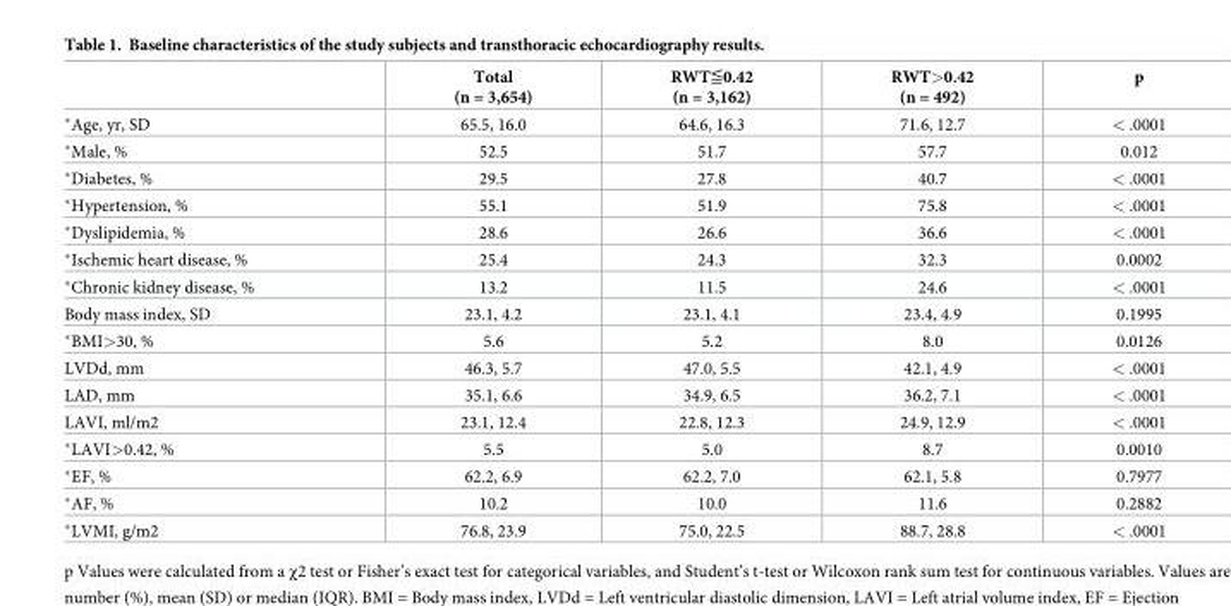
<table><thead><tr><td></td><td>Total (n = 3,654)</td><td>RWT≦0.42 (n = 3,162)</td><td>RWT&gt;0.42 (n = 492)</td><td>p</td></tr></thead><tbody><tr><td>*Age, yr, SD</td><td>65.5, 16.0</td><td>64.6, 16.3</td><td>71.6, 12.7</td><td>&lt; .0001</td></tr><tr><td>*Male, %</td><td>52.5</td><td>51.7</td><td>57.7</td><td>0.012</td></tr><tr><td>*Diabetes, %</td><td>29.5</td><td>27.8</td><td>40.7</td><td>&lt; .0001</td></tr><tr><td>*Hypertension, %</td><td>55.1</td><td>51.9</td><td>75.8</td><td>&lt; .0001</td></tr><tr><td>*Dyslipidemia, %</td><td>28.6</td><td>26.6</td><td>36.6</td><td>&lt; .0001</td></tr><tr><td>*Ischemic heart disease, %</td><td>25.4</td><td>24.3</td><td>32.3</td><td>0.0002</td></tr><tr><td>*Chronic kidney disease, %</td><td>13.2</td><td>11.5</td><td>24.6</td><td>&lt; .0001</td></tr><tr><td>Body mass index, SD</td><td>23.1, 4.2</td><td>23.1, 4.1</td><td>23.4, 4.9</td><td>0.1995</td></tr><tr><td>*BMI&gt;30, %</td><td>5.6</td><td>5.2</td><td>8.0</td><td>0.0126</td></tr><tr><td>LVDd, mm</td><td>46.3, 5.7</td><td>47.0, 5.5</td><td>42.1, 4.9</td><td>&lt; .0001</td></tr><tr><td>LAD, mm</td><td>35.1, 6.6</td><td>34.9, 6.5</td><td>36.2, 7.1</td><td>&lt; .0001</td></tr><tr><td>LAVI, ml/m2</td><td>23.1, 12.4</td><td>22.8, 12.3</td><td>24.9, 12.9</td><td>&lt; .0001</td></tr><tr><td>*LAVI&gt;0.42, %</td><td>5.5</td><td>5.0</td><td>8.7</td><td>0.0010</td></tr><tr><td>*EF, %</td><td>62.2, 6.9</td><td>62.2, 7.0</td><td>62.1, 5.8</td><td>0.7977</td></tr><tr><td>*AF, %</td><td>10.2</td><td>10.0</td><td>11.6</td><td>0.2882</td></tr><tr><td>*LVMI, g/m2</td><td>76.8, 23.9</td><td>75.0, 22.5</td><td>88.7, 28.8</td><td>&lt; .0001</td></tr></tbody></table>